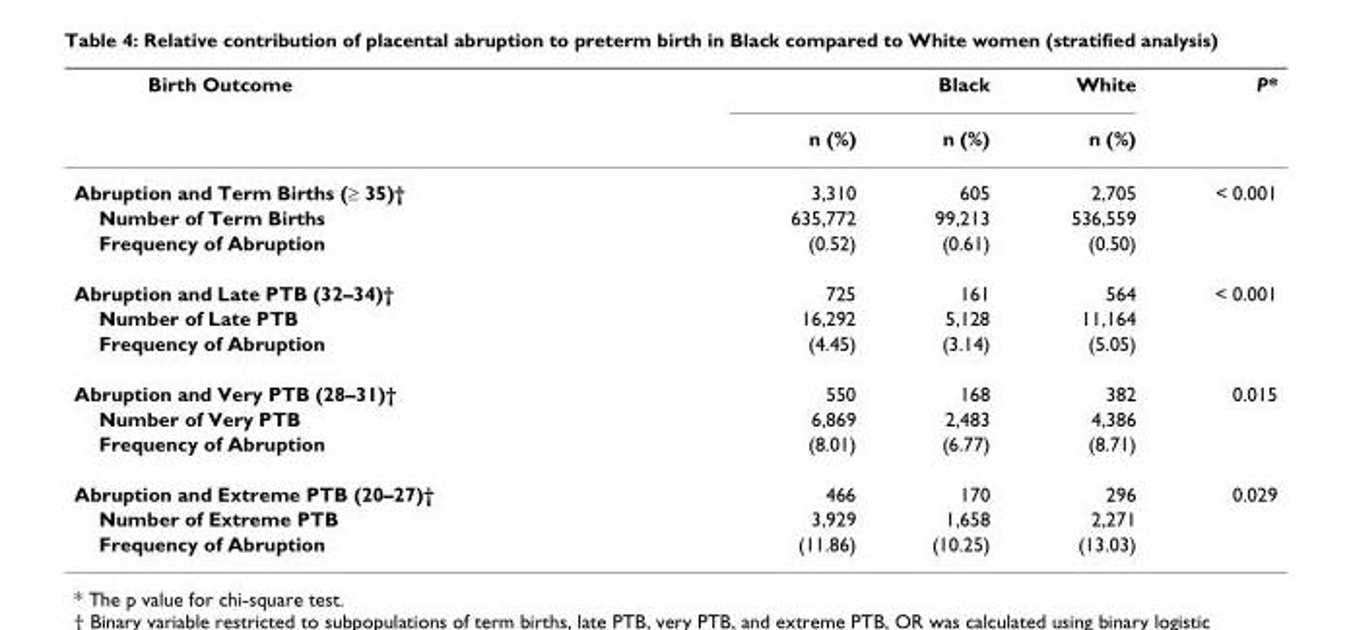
<table><thead><tr><td rowspan="2">Birth Outcome</td><td rowspan="2">n (%)</td><td rowspan="2">Black n (%)</td><td rowspan="2">White n (%)</td><td rowspan="2">P*</td></tr><tr></tr></thead><tbody><tr><td>Abruption and Term Births (≥ 35)†</td><td>3,310</td><td>605</td><td>2,705</td><td>&lt; 0.001</td></tr><tr><td>Number of Term Births</td><td>635,772</td><td>99,213</td><td>536,559</td><td></td></tr><tr><td>Frequency of Abruption</td><td>(0.52)</td><td>(0.61)</td><td>(0.50)</td><td></td></tr><tr><td>Abruption and Late PTB (32–34)†</td><td>725</td><td>161</td><td>564</td><td>&lt; 0.001</td></tr><tr><td>Number of Late PTB</td><td>16,292</td><td>5,128</td><td>11,164</td><td></td></tr><tr><td>Frequency of Abruption</td><td>(4.45)</td><td>(3.14)</td><td>(5.05)</td><td></td></tr><tr><td>Abruption and Very PTB (28–31)†</td><td>550</td><td>168</td><td>382</td><td>0.015</td></tr><tr><td>Number of Very PTB</td><td>6,869</td><td>2,483</td><td>4,386</td><td></td></tr><tr><td>Frequency of Abruption</td><td>(8.01)</td><td>(6.77)</td><td>(8.71)</td><td></td></tr><tr><td>Abruption and Extreme PTB (20–27)†</td><td>466</td><td>170</td><td>296</td><td>0.029</td></tr><tr><td>Number of Extreme PTB</td><td>3,929</td><td>1,658</td><td>2,271</td><td></td></tr><tr><td>Frequency of Abruption</td><td>(11.86)</td><td>(10.25)</td><td>(13.03)</td><td></td></tr></tbody></table>